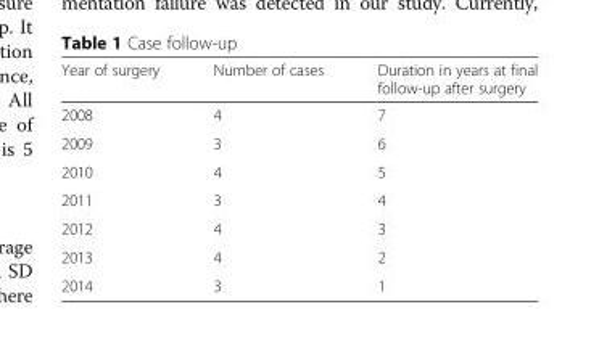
<table><thead><tr><td>Year of surgery</td><td>Number of cases</td><td>Duration in years at final follow-up after surgery</td></tr></thead><tbody><tr><td>2008</td><td>4</td><td>7</td></tr><tr><td>2009</td><td>3</td><td>6</td></tr><tr><td>2010</td><td>4</td><td>5</td></tr><tr><td>2011</td><td>3</td><td>4</td></tr><tr><td>2012</td><td>4</td><td>3</td></tr><tr><td>2013</td><td>4</td><td>2</td></tr><tr><td>2014</td><td>3</td><td>1</td></tr></tbody></table>